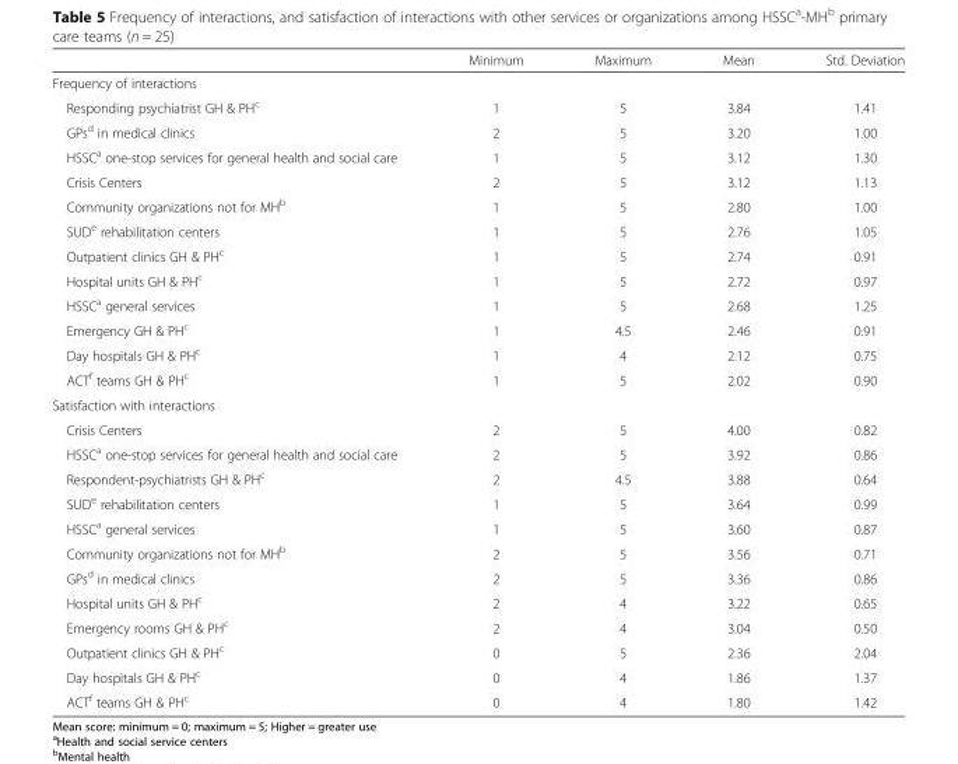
<table><thead><tr><td></td><td>Minimum</td><td>Maximum</td><td>Mean</td><td>Std. Deviation</td></tr></thead><tbody><tr><td colspan="5">Frequency of interactions</td></tr><tr><td>Responding psychiatrist GH &amp; PH<sup>c</sup></td><td>1</td><td>5</td><td>3.84</td><td>1.41</td></tr><tr><td>GPs<sup>d</sup> in medical clinics</td><td>2</td><td>5</td><td>3.20</td><td>1.00</td></tr><tr><td>HSSC<sup>a</sup> one-stop services for general health and social care</td><td>1</td><td>5</td><td>3.12</td><td>1.30</td></tr><tr><td>Crisis Centers</td><td>2</td><td>5</td><td>3.12</td><td>1.13</td></tr><tr><td>Community organizations not for MH<sup>b</sup></td><td>1</td><td>5</td><td>2.80</td><td>1.00</td></tr><tr><td>SUD<sup>e</sup> rehabilitation centers</td><td>1</td><td>5</td><td>2.76</td><td>1.05</td></tr><tr><td>Outpatient clinics GH &amp; PH<sup>c</sup></td><td>1</td><td>5</td><td>2.74</td><td>0.91</td></tr><tr><td>Hospital units GH &amp; PH<sup>c</sup></td><td>1</td><td>5</td><td>2.72</td><td>0.97</td></tr><tr><td>HSSC<sup>a</sup> general services</td><td>1</td><td>5</td><td>2.68</td><td>1.25</td></tr><tr><td>Emergency GH &amp; PH<sup>c</sup></td><td>1</td><td>4.5</td><td>2.46</td><td>0.91</td></tr><tr><td>Day hospitals GH &amp; PH<sup>c</sup></td><td>1</td><td>4</td><td>2.12</td><td>0.75</td></tr><tr><td>ACT<sup>f</sup> teams GH &amp; PH<sup>c</sup></td><td>1</td><td>5</td><td>2.02</td><td>0.90</td></tr><tr><td colspan="5">Satisfaction with interactions</td></tr><tr><td>Crisis Centers</td><td>2</td><td>5</td><td>4.00</td><td>0.82</td></tr><tr><td>HSSC<sup>a</sup> one-stop services for general health and social care</td><td>2</td><td>5</td><td>3.92</td><td>0.86</td></tr><tr><td>Respondent-psychiatrists GH &amp; PH<sup>c</sup></td><td>2</td><td>4.5</td><td>3.88</td><td>0.64</td></tr><tr><td>SUD<sup>e</sup> rehabilitation centers</td><td>1</td><td>5</td><td>3.64</td><td>0.99</td></tr><tr><td>HSSC<sup>a</sup> general services</td><td>1</td><td>5</td><td>3.60</td><td>0.87</td></tr><tr><td>Community organizations not for MH<sup>b</sup></td><td>2</td><td>5</td><td>3.56</td><td>0.71</td></tr><tr><td>GPs<sup>d</sup> in medical clinics</td><td>2</td><td>5</td><td>3.36</td><td>0.86</td></tr><tr><td>Hospital units GH &amp; PH<sup>c</sup></td><td>2</td><td>4</td><td>3.22</td><td>0.65</td></tr><tr><td>Emergency rooms GH &amp; PH<sup>c</sup></td><td>2</td><td>4</td><td>3.04</td><td>0.50</td></tr><tr><td>Outpatient clinics GH &amp; PH<sup>c</sup></td><td>0</td><td>5</td><td>2.36</td><td>2.04</td></tr><tr><td>Day hospitals GH &amp; PH<sup>c</sup></td><td>0</td><td>4</td><td>1.86</td><td>1.37</td></tr><tr><td>ACT<sup>f</sup> teams GH &amp; PH<sup>c</sup></td><td>0</td><td>4</td><td>1.80</td><td>1.42</td></tr></tbody></table>